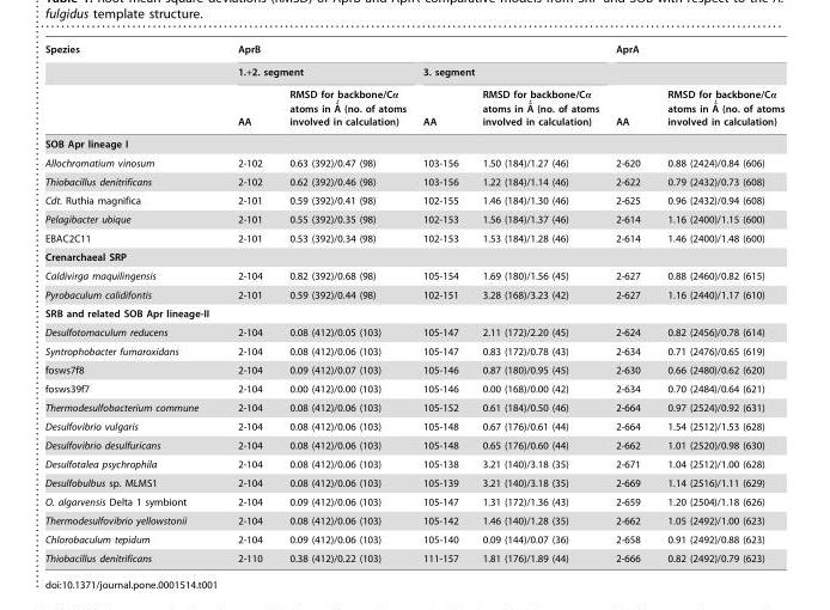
<table><thead><tr><td rowspan="3">Spezies</td><td colspan="4">AprB</td><td colspan="2">AprA</td></tr><tr><td colspan="2">1.+2. segment</td><td colspan="2">3. segment</td><td rowspan="2">AA</td><td rowspan="2">RMSD for backbone/Ca atoms in A˚´ (no. of atoms involved in calculation)</td></tr><tr><td>AA</td><td>RMSD for backbone/Ca atoms in A˚´ (no. of atoms involved in calculation)</td><td>AA</td><td>RMSD for backbone/Ca atoms in A˚´ (no. of atoms involved in calculation)</td></tr></thead><tbody><tr><td colspan="7">SOB Apr lineage I</td></tr><tr><td>Allochromatium vinosum</td><td>2-102</td><td>0.63 (392)/0.47 (98)</td><td>103-156</td><td>1.50 (184)/1.27 (46)</td><td>2-620</td><td>0.88 (2424)/0.84 (606)</td></tr><tr><td>Thiobacillus denitrificans</td><td>2-102</td><td>0.62 (392)/0.46 (98)</td><td>103-156</td><td>1.22 (184)/1.14 (46)</td><td>2-622</td><td>0.79 (2432)/0.73 (608)</td></tr><tr><td>Cdt. Ruthia magnifica</td><td>2-101</td><td>0.59 (392)/0.41 (98)</td><td>102-155</td><td>1.46 (184)/1.30 (46)</td><td>2-625</td><td>0.96 (2432)/0.94 (608)</td></tr><tr><td>Pelagibacter ubique</td><td>2-101</td><td>0.55 (392)/0.35 (98)</td><td>102-153</td><td>1.56 (184)/1.37 (46)</td><td>2-614</td><td>1.16 (2400)/1.15 (600)</td></tr><tr><td>EBAC2C11</td><td>2-101</td><td>0.53 (392)/0.34 (98)</td><td>102-153</td><td>1.53 (184)/1.28 (46)</td><td>2-614</td><td>1.46 (2400)/1.48 (600)</td></tr><tr><td colspan="7">Crenarchaeal SRP</td></tr><tr><td>Caldivirga maquilingensis</td><td>2-104</td><td>0.82 (392)/0.68 (98)</td><td>105-154</td><td>1.69 (180)/1.56 (45)</td><td>2-627</td><td>0.88 (2460)/0.82 (615)</td></tr><tr><td>Pyrobaculum calidifontis</td><td>2-101</td><td>0.59 (392)/0.44 (98)</td><td>102-151</td><td>3.28 (168)/3.23 (42)</td><td>2-627</td><td>1.16 (2440)/1.17 (610)</td></tr><tr><td colspan="7">SRB and related SOB Apr lineage-II</td></tr><tr><td>Desulfotomaculum reducens</td><td>2-104</td><td>0.08 (412)/0.05 (103)</td><td>105-147</td><td>2.11 (172)/2.20 (45)</td><td>2-624</td><td>0.82 (2456)/0.78 (614)</td></tr><tr><td>Syntrophobacter fumaroxidans</td><td>2-104</td><td>0.08 (412)/0.06 (103)</td><td>105-147</td><td>0.83 (172)/0.78 (43)</td><td>2-634</td><td>0.71 (2476)/0.65 (619)</td></tr><tr><td>fosws7f8</td><td>2-104</td><td>0.09 (412)/0.07 (103)</td><td>105-146</td><td>0.87 (180)/0.95 (45)</td><td>2-630</td><td>0.66 (2480)/0.62 (620)</td></tr><tr><td>fosws39f7</td><td>2-104</td><td>0.00 (412)/0.00 (103)</td><td>105-146</td><td>0.00 (168)/0.00 (42)</td><td>2-634</td><td>0.70 (2484)/0.64 (621)</td></tr><tr><td>Thermodesulfobacterium commune</td><td>2-104</td><td>0.08 (412)/0.06 (103)</td><td>105-152</td><td>0.61 (184)/0.50 (46)</td><td>2-664</td><td>0.97 (2524)/0.92 (631)</td></tr><tr><td>Desulfovibrio vulgaris</td><td>2-104</td><td>0.08 (412)/0.06 (103)</td><td>105-148</td><td>0.67 (176)/0.61 (44)</td><td>2-664</td><td>1.54 (2512)/1.53 (628)</td></tr><tr><td>Desulfovibrio desulfuricans</td><td>2-104</td><td>0.08 (412)/0.06 (103)</td><td>105-148</td><td>0.65 (176)/0.60 (44)</td><td>2-662</td><td>1.01 (2520)/0.98 (630)</td></tr><tr><td>Desulfotalea psychrophila</td><td>2-104</td><td>0.08 (412)/0.06 (103)</td><td>105-138</td><td>3.21 (140)/3.18 (35)</td><td>2-671</td><td>1.04 (2512)/1.00 (628)</td></tr><tr><td>Desulfobulbus sp. MLMS1</td><td>2-104</td><td>0.08 (412)/0.06 (103)</td><td>105-139</td><td>3.21 (140)/3.18 (35)</td><td>2-669</td><td>1.14 (2516)/1.11 (629)</td></tr><tr><td>O. algarvensis Delta 1 symbiont</td><td>2-104</td><td>0.09 (412)/0.06 (103)</td><td>105-147</td><td>1.31 (172)/1.36 (43)</td><td>2-659</td><td>1.20 (2504)/1.18 (626)</td></tr><tr><td>Thermodesulfovibrio yellowstonii</td><td>2-104</td><td>0.08 (412)/0.06 (103)</td><td>105-142</td><td>1.46 (140)/1.28 (35)</td><td>2-662</td><td>1.05 (2492)/1.00 (623)</td></tr><tr><td>Chlorobaculum tepidum</td><td>2-104</td><td>0.09 (412)/0.06 (103)</td><td>105-140</td><td>0.09 (144)/0.07 (36)</td><td>2-658</td><td>0.91 (2492)/0.88 (623)</td></tr><tr><td>Thiobacillus denitrificans</td><td>2-110</td><td>0.38 (412)/0.22 (103)</td><td>111-157</td><td>1.81 (176)/1.89 (44)</td><td>2-666</td><td>0.82 (2492)/0.79 (623)</td></tr></tbody></table>